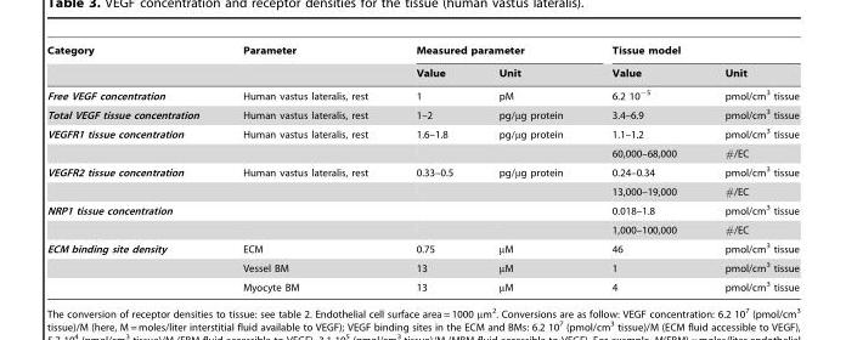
<table><thead><tr><td rowspan="2">Category</td><td rowspan="2">Parameter</td><td colspan="2">Measured parameter</td><td colspan="2">Tissue model</td></tr><tr><td>Value</td><td>Unit</td><td>Value</td><td>Unit</td></tr></thead><tbody><tr><td>Free VEGF concentration</td><td>Human vastus lateralis, rest</td><td>1</td><td>pM</td><td>6.2 10<sup>−5</sup></td><td>pmol/cm<sup>3</sup> tissue</td></tr><tr><td>Total VEGF tissue concentration</td><td>Human vastus lateralis, rest</td><td>1–2</td><td>pg/µg protein</td><td>3.4–6.9</td><td>pmol/cm<sup>3</sup> tissue</td></tr><tr><td rowspan="2">VEGFR1 tissue concentration</td><td>Human vastus lateralis, rest</td><td>1.6–1.8</td><td>pg/µg protein</td><td>1.1–1.2</td><td>pmol/cm<sup>3</sup> tissue</td></tr><tr><td></td><td></td><td></td><td>60,000–68,000</td><td>#/EC</td></tr><tr><td rowspan="2">VEGFR2 tissue concentration</td><td>Human vastus lateralis, rest</td><td>0.33–0.5</td><td>pg/µg protein</td><td>0.24–0.34</td><td>pmol/cm<sup>3</sup> tissue</td></tr><tr><td></td><td></td><td></td><td>13,000–19,000</td><td>#/EC</td></tr><tr><td rowspan="2">NRP1 tissue concentration</td><td></td><td></td><td></td><td>0.018–1.8</td><td>pmol/cm<sup>3</sup> tissue</td></tr><tr><td></td><td></td><td></td><td>1,000–100,000</td><td>#/EC</td></tr><tr><td rowspan="3">ECM binding site density</td><td>ECM</td><td>0.75</td><td>µM</td><td>46</td><td>pmol/cm<sup>3</sup> tissue</td></tr><tr><td>Vessel BM</td><td>13</td><td>µM</td><td>1</td><td>pmol/cm<sup>3</sup> tissue</td></tr><tr><td>Myocyte BM</td><td>13</td><td>µM</td><td>4</td><td>pmol/cm<sup>3</sup> tissue</td></tr></tbody></table>